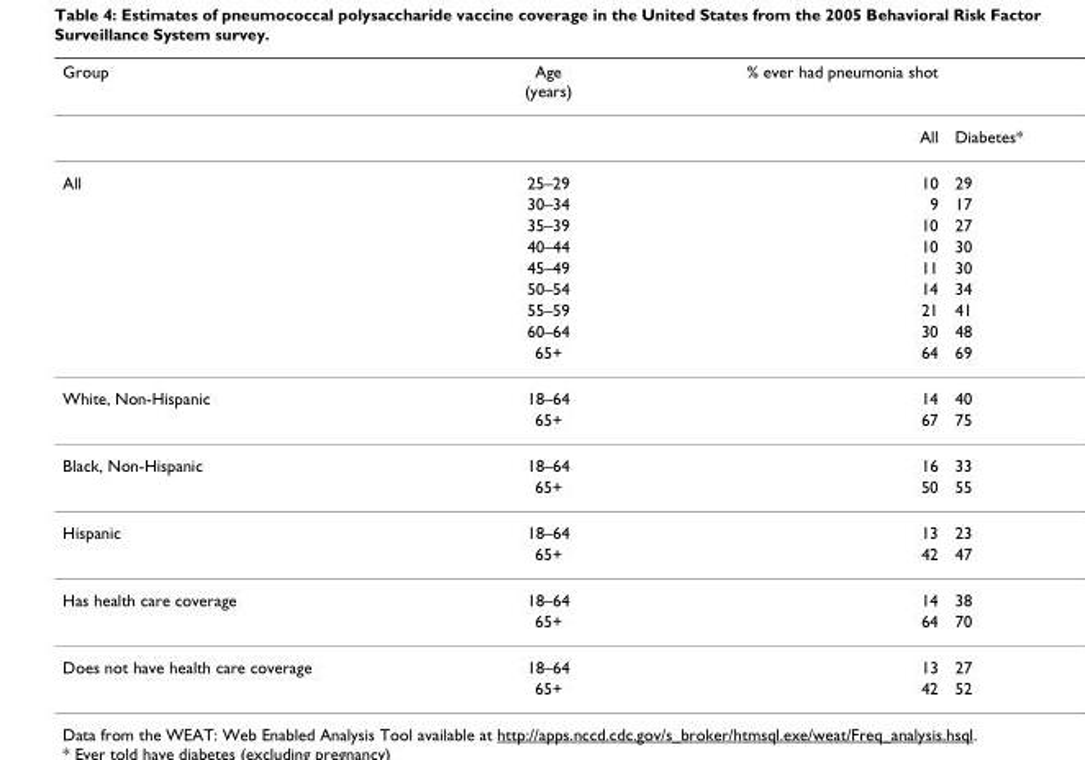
<table><thead><tr><td>Group</td><td>Age (years)</td><td>% ever had pneumonia shot</td><td></td></tr></thead><tbody><tr><td></td><td></td><td>All</td><td>Diabetes*</td></tr><tr><td rowspan="9">All</td><td>25–29</td><td>10</td><td>29</td></tr><tr><td>30–34</td><td>9</td><td>17</td></tr><tr><td>35–39</td><td>10</td><td>27</td></tr><tr><td>40–44</td><td>10</td><td>30</td></tr><tr><td>45–49</td><td>11</td><td>30</td></tr><tr><td>50–54</td><td>14</td><td>34</td></tr><tr><td>55–59</td><td>21</td><td>41</td></tr><tr><td>60–64</td><td>30</td><td>48</td></tr><tr><td>65+</td><td>64</td><td>69</td></tr><tr><td rowspan="2">White, Non-Hispanic</td><td>18–64</td><td>14</td><td>40</td></tr><tr><td>65+</td><td>67</td><td>75</td></tr><tr><td rowspan="2">Black, Non-Hispanic</td><td>18–64</td><td>16</td><td>33</td></tr><tr><td>65+</td><td>50</td><td>55</td></tr><tr><td rowspan="2">Hispanic</td><td>18–64</td><td>13</td><td>23</td></tr><tr><td>65+</td><td>42</td><td>47</td></tr><tr><td rowspan="2">Has health care coverage</td><td>18–64</td><td>14</td><td>38</td></tr><tr><td>65+</td><td>64</td><td>70</td></tr><tr><td rowspan="2">Does not have health care coverage</td><td>18–64</td><td>13</td><td>27</td></tr><tr><td>65+</td><td>42</td><td>52</td></tr></tbody></table>